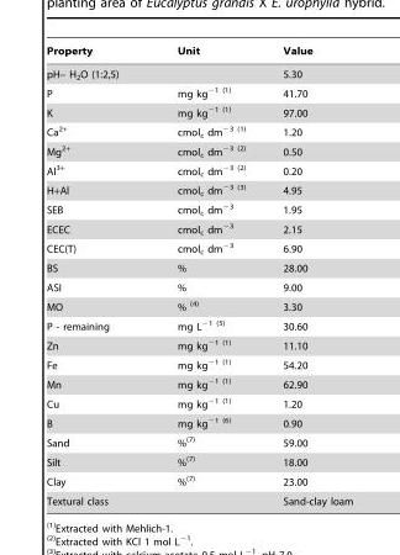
<table><thead><tr><td>Property</td><td>Unit</td><td>Value</td></tr></thead><tbody><tr><td>pH– H2O (1:2,5)</td><td></td><td>5.30</td></tr><tr><td>P</td><td>mg kg<sup>−1</sup> (1)</td><td>41.70</td></tr><tr><td>K</td><td>mg kg<sup>−1</sup> (1)</td><td>97.00</td></tr><tr><td>Ca<sup>2+</sup></td><td>cmol<sub>c</sub> dm<sup>−3</sup> (1)</td><td>1.20</td></tr><tr><td>Mg<sup>2+</sup></td><td>cmol<sub>c</sub> dm<sup>−3</sup> (2)</td><td>0.50</td></tr><tr><td>Al<sup>3+</sup></td><td>cmol<sub>c</sub> dm<sup>−3</sup> (2)</td><td>0.20</td></tr><tr><td>H+Al</td><td>cmol<sub>c</sub> dm<sup>−3</sup> (3)</td><td>4.95</td></tr><tr><td>SEB</td><td>cmol<sub>c</sub> dm<sup>−3</sup></td><td>1.95</td></tr><tr><td>ECEC</td><td>cmol<sub>c</sub> dm<sup>−3</sup></td><td>2.15</td></tr><tr><td>CEC(T)</td><td>cmol<sub>c</sub> dm<sup>−3</sup></td><td>6.90</td></tr><tr><td>BS</td><td>%</td><td>28.00</td></tr><tr><td>ASI</td><td>%</td><td>9.00</td></tr><tr><td>MO</td><td>% (4)</td><td>3.30</td></tr><tr><td>P - remaining</td><td>mg L<sup>−1</sup> (5)</td><td>30.60</td></tr><tr><td>Zn</td><td>mg kg<sup>−1</sup> (1)</td><td>11.10</td></tr><tr><td>Fe</td><td>mg kg<sup>−1</sup> (1)</td><td>54.20</td></tr><tr><td>Mn</td><td>mg kg<sup>−1</sup> (1)</td><td>62.90</td></tr><tr><td>Cu</td><td>mg kg<sup>−1</sup> (1)</td><td>1.20</td></tr><tr><td>B</td><td>mg kg<sup>−1</sup> (6)</td><td>0.90</td></tr><tr><td>Sand</td><td>%(7)</td><td>59.00</td></tr><tr><td>Silt</td><td>%(7)</td><td>18.00</td></tr><tr><td>Clay</td><td>%(7)</td><td>23.00</td></tr><tr><td>Textural class</td><td></td><td>Sand-clay loam</td></tr></tbody></table>